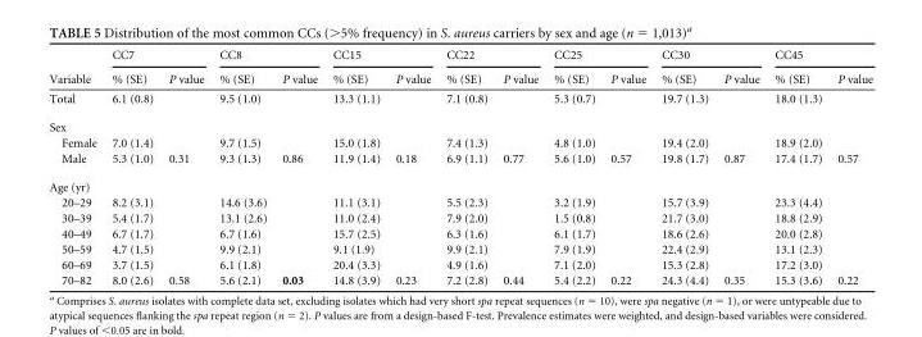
<table><thead><tr><td rowspan="2">Variable</td><td colspan="2">CC7</td><td colspan="2">CC8</td><td colspan="2">CC15</td><td colspan="2">CC22</td><td colspan="2">CC25</td><td colspan="2">CC30</td><td colspan="2">CC45</td></tr><tr><td>% (SE)</td><td>P value</td><td>% (SE)</td><td>P value</td><td>% (SE)</td><td>P value</td><td>% (SE)</td><td>P value</td><td>% (SE)</td><td>P value</td><td>% (SE)</td><td>P value</td><td>% (SE)</td><td>P value</td></tr></thead><tbody><tr><td>Total</td><td>6.1 (0.8)</td><td></td><td>9.5 (1.0)</td><td></td><td>13.3 (1.1)</td><td></td><td>7.1 (0.8)</td><td></td><td>5.3 (0.7)</td><td></td><td>19.7 (1.3)</td><td></td><td>18.0 (1.3)</td><td></td></tr><tr><td colspan="15">Sex</td></tr><tr><td>Female</td><td>7.0 (1.4)</td><td></td><td>9.7 (1.5)</td><td></td><td>15.0 (1.8)</td><td></td><td>7.4 (1.3)</td><td></td><td>4.8 (1.0)</td><td></td><td>19.4 (2.0)</td><td></td><td>18.9 (2.0)</td><td></td></tr><tr><td>Male</td><td>5.3 (1.0)</td><td>0.31</td><td>9.3 (1.3)</td><td>0.86</td><td>11.9 (1.4)</td><td>0.18</td><td>6.9 (1.1)</td><td>0.77</td><td>5.6 (1.0)</td><td>0.57</td><td>19.8 (1.7)</td><td>0.87</td><td>17.4 (1.7)</td><td>0.57</td></tr><tr><td colspan="15">Age (yr)</td></tr><tr><td>20–29</td><td>8.2 (3.1)</td><td></td><td>14.6 (3.6)</td><td></td><td>11.1 (3.1)</td><td></td><td>5.5 (2.3)</td><td></td><td>3.2 (1.9)</td><td></td><td>15.7 (3.9)</td><td></td><td>23.3 (4.4)</td><td></td></tr><tr><td>30–39</td><td>5.4 (1.7)</td><td></td><td>13.1 (2.6)</td><td></td><td>11.0 (2.4)</td><td></td><td>7.9 (2.0)</td><td></td><td>1.5 (0.8)</td><td></td><td>21.7 (3.0)</td><td></td><td>18.8 (2.9)</td><td></td></tr><tr><td>40–49</td><td>6.7 (1.7)</td><td></td><td>6.7 (1.6)</td><td></td><td>15.7 (2.5)</td><td></td><td>6.3 (1.6)</td><td></td><td>6.1 (1.7)</td><td></td><td>18.6 (2.6)</td><td></td><td>20.0 (2.8)</td><td></td></tr><tr><td>50–59</td><td>4.7 (1.5)</td><td></td><td>9.9 (2.1)</td><td></td><td>9.1 (1.9)</td><td></td><td>9.9 (2.1)</td><td></td><td>7.9 (1.9)</td><td></td><td>22.4 (2.9)</td><td></td><td>13.1 (2.3)</td><td></td></tr><tr><td>60–69</td><td>3.7 (1.5)</td><td></td><td>6.1 (1.8)</td><td></td><td>20.4 (3.3)</td><td></td><td>4.9 (1.6)</td><td></td><td>7.1 (2.0)</td><td></td><td>15.3 (2.8)</td><td></td><td>17.2 (3.0)</td><td></td></tr><tr><td>70–82</td><td>8.0 (2.6)</td><td>0.58</td><td>5.6 (2.1)</td><td>0.03</td><td>14.8 (3.9)</td><td>0.23</td><td>7.2 (2.8)</td><td>0.44</td><td>5.4 (2.2)</td><td>0.22</td><td>24.3 (4.4)</td><td>0.35</td><td>15.3 (3.6)</td><td>0.22</td></tr></tbody></table>